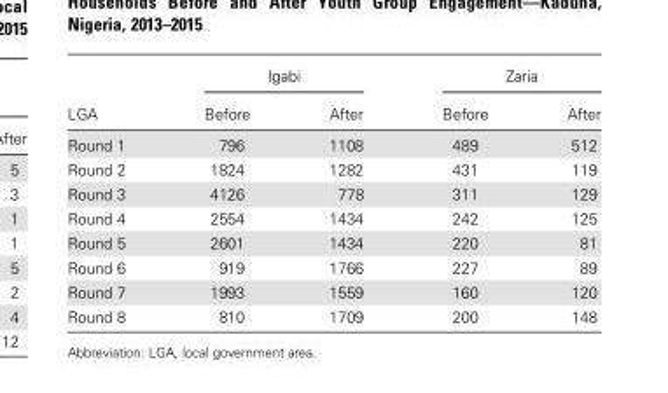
<table><thead><tr><td rowspan="2">LGA</td><td colspan="2">Igabi</td><td colspan="2">Zaria</td></tr><tr><td>Before</td><td>After</td><td>Before</td><td>After</td></tr></thead><tbody><tr><td>Round 1</td><td>796</td><td>1108</td><td>489</td><td>512</td></tr><tr><td>Round 2</td><td>1824</td><td>1282</td><td>431</td><td>119</td></tr><tr><td>Round 3</td><td>4126</td><td>778</td><td>311</td><td>129</td></tr><tr><td>Round 4</td><td>2554</td><td>1434</td><td>242</td><td>125</td></tr><tr><td>Round 5</td><td>2601</td><td>1434</td><td>220</td><td>81</td></tr><tr><td>Round 6</td><td>919</td><td>1766</td><td>227</td><td>89</td></tr><tr><td>Round 7</td><td>1993</td><td>1559</td><td>160</td><td>120</td></tr><tr><td>Round 8</td><td>810</td><td>1709</td><td>200</td><td>148</td></tr></tbody></table>